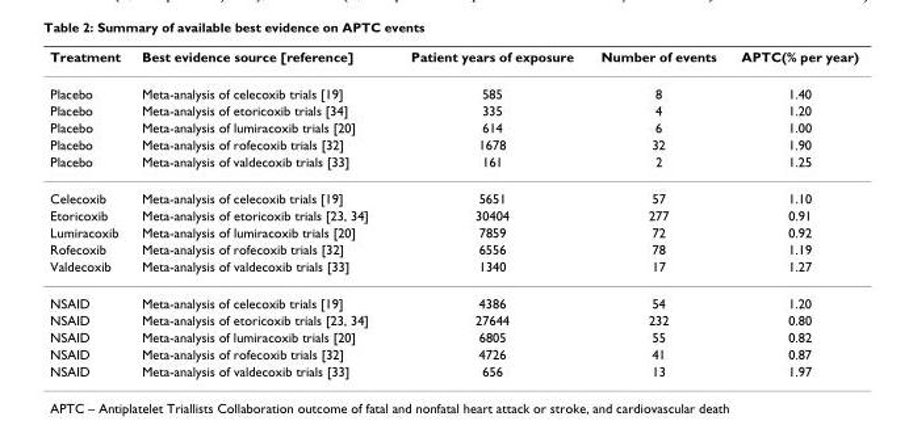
<table><thead><tr><td>Treatment</td><td>Best evidence source [reference]</td><td>Patient years of exposure</td><td>Number of events</td><td>APTC(% per year)</td></tr></thead><tbody><tr><td>Placebo</td><td>Meta-analysis of celecoxib trials [19]</td><td>585</td><td>8</td><td>1.40</td></tr><tr><td>Placebo</td><td>Meta-analysis of etoricoxib trials [34]</td><td>335</td><td>4</td><td>1.20</td></tr><tr><td>Placebo</td><td>Meta-analysis of lumiracoxib trials [20]</td><td>614</td><td>6</td><td>1.00</td></tr><tr><td>Placebo</td><td>Meta-analysis of rofecoxib trials [32]</td><td>1678</td><td>32</td><td>1.90</td></tr><tr><td>Placebo</td><td>Meta-analysis of valdecoxib trials [33]</td><td>161</td><td>2</td><td>1.25</td></tr><tr><td>Celecoxib</td><td>Meta-analysis of celecoxib trials [19]</td><td>5651</td><td>57</td><td>1.10</td></tr><tr><td>Etoricoxib</td><td>Meta-analysis of etoricoxib trials [23, 34]</td><td>30404</td><td>277</td><td>0.91</td></tr><tr><td>Lumiracoxib</td><td>Meta-analysis of lumiracoxib trials [20]</td><td>7859</td><td>72</td><td>0.92</td></tr><tr><td>Rofecoxib</td><td>Meta-analysis of rofecoxib trials [32]</td><td>6556</td><td>78</td><td>1.19</td></tr><tr><td>Valdecoxib</td><td>Meta-analysis of valdecoxib trials [33]</td><td>1340</td><td>17</td><td>1.27</td></tr><tr><td>NSAID</td><td>Meta-analysis of celecoxib trials [19]</td><td>4386</td><td>54</td><td>1.20</td></tr><tr><td>NSAID</td><td>Meta-analysis of etoricoxib trials [23, 34]</td><td>27644</td><td>232</td><td>0.80</td></tr><tr><td>NSAID</td><td>Meta-analysis of lumiracoxib trials [20]</td><td>6805</td><td>55</td><td>0.82</td></tr><tr><td>NSAID</td><td>Meta-analysis of rofecoxib trials [32]</td><td>4726</td><td>41</td><td>0.87</td></tr><tr><td>NSAID</td><td>Meta-analysis of valdecoxib trials [33]</td><td>656</td><td>13</td><td>1.97</td></tr></tbody></table>